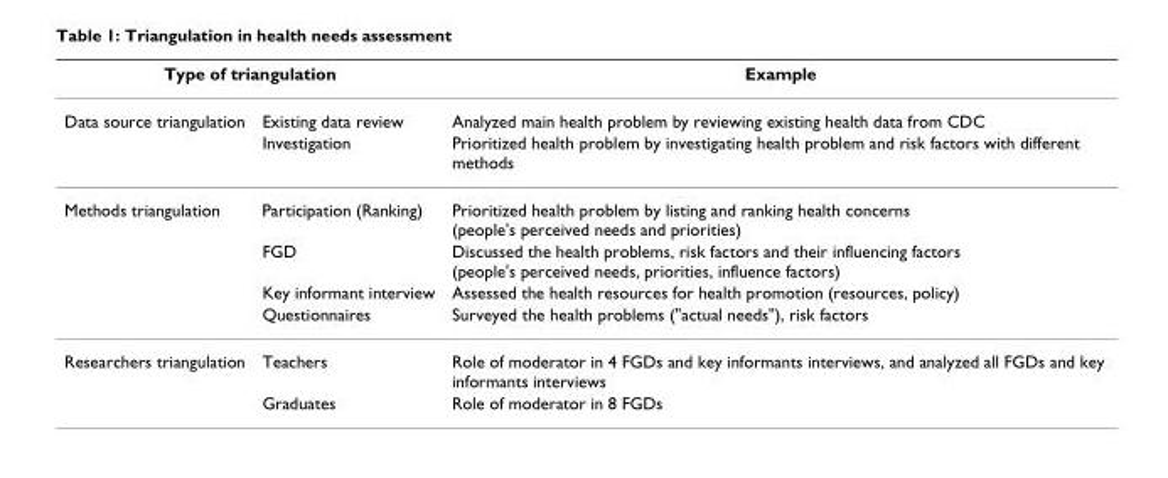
<table><thead><tr><td colspan="2">Type of triangulation</td><td rowspan="2">Example Analyzed main health problem by reviewing existing health data from CDC</td></tr><tr><td>Data source triangulation</td><td>Existing data review</td></tr></thead><tbody><tr><td></td><td>Investigation</td><td>Prioritized health problem by investigating health problem and risk factors with different methods</td></tr><tr><td rowspan="4">Methods triangulation</td><td>Participation (Ranking)</td><td>Prioritized health problem by listing and ranking health concerns (people&#x27;s perceived needs and priorities)</td></tr><tr><td>FGD</td><td>Discussed the health problems, risk factors and their influencing factors (people&#x27;s perceived needs, priorities, influence factors)</td></tr><tr><td>Key informant interview</td><td>Assessed the health resources for health promotion (resources, policy)</td></tr><tr><td>Questionnaires</td><td>Surveyed the health problems (&quot;actual needs&quot;), risk factors</td></tr><tr><td rowspan="2">Researchers triangulation</td><td>Teachers</td><td>Role of moderator in 4 FGDs and key informants interviews, and analyzed all FGDs and key informants interviews</td></tr><tr><td>Graduates</td><td>Role of moderator in 8 FGDs</td></tr></tbody></table>